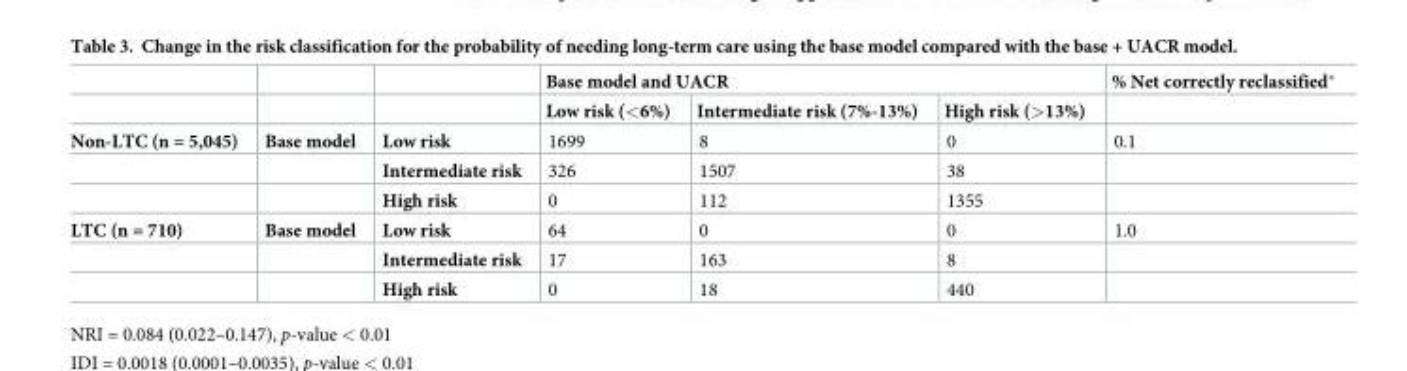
<table><thead><tr><td rowspan="2"></td><td rowspan="2"></td><td rowspan="2"></td><td colspan="3">Base model and UACR</td><td rowspan="2">% Net correctly reclassified*</td></tr><tr><td>Low risk (&lt;6%)</td><td>Intermediate risk (7%-13%)</td><td>High risk (&gt;13%)</td></tr></thead><tbody><tr><td rowspan="3">Non-LTC (n = 5,045)</td><td>Base model</td><td>Low risk</td><td>1699</td><td>8</td><td>0</td><td>0.1</td></tr><tr><td></td><td>Intermediate risk</td><td>326</td><td>1507</td><td>38</td><td></td></tr><tr><td></td><td>High risk</td><td>0</td><td>112</td><td>1355</td><td></td></tr><tr><td rowspan="3">LTC (n = 710)</td><td>Base model</td><td>Low risk</td><td>64</td><td>0</td><td>0</td><td>1.0</td></tr><tr><td></td><td>Intermediate risk</td><td>17</td><td>163</td><td>8</td><td></td></tr><tr><td></td><td>High risk</td><td>0</td><td>18</td><td>440</td><td></td></tr></tbody></table>